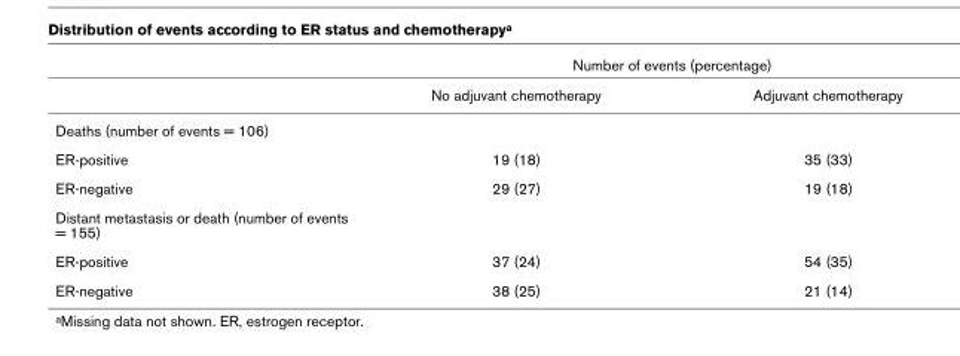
<table><thead><tr><td rowspan="2"></td><td colspan="2">Number of events (percentage)</td></tr><tr><td>No adjuvant chemotherapy</td><td>Adjuvant chemotherapy</td></tr></thead><tbody><tr><td colspan="3">Deaths (number of events = 106)</td></tr><tr><td>ER-positive</td><td>19 (18)</td><td>35 (33)</td></tr><tr><td>ER-negative</td><td>29 (27)</td><td>19 (18)</td></tr><tr><td colspan="3">Distant metastasis or death (number of events = 155)</td></tr><tr><td>ER-positive</td><td>37 (24)</td><td>54 (35)</td></tr><tr><td>ER-negative</td><td>38 (25)</td><td>21 (14)</td></tr></tbody></table>